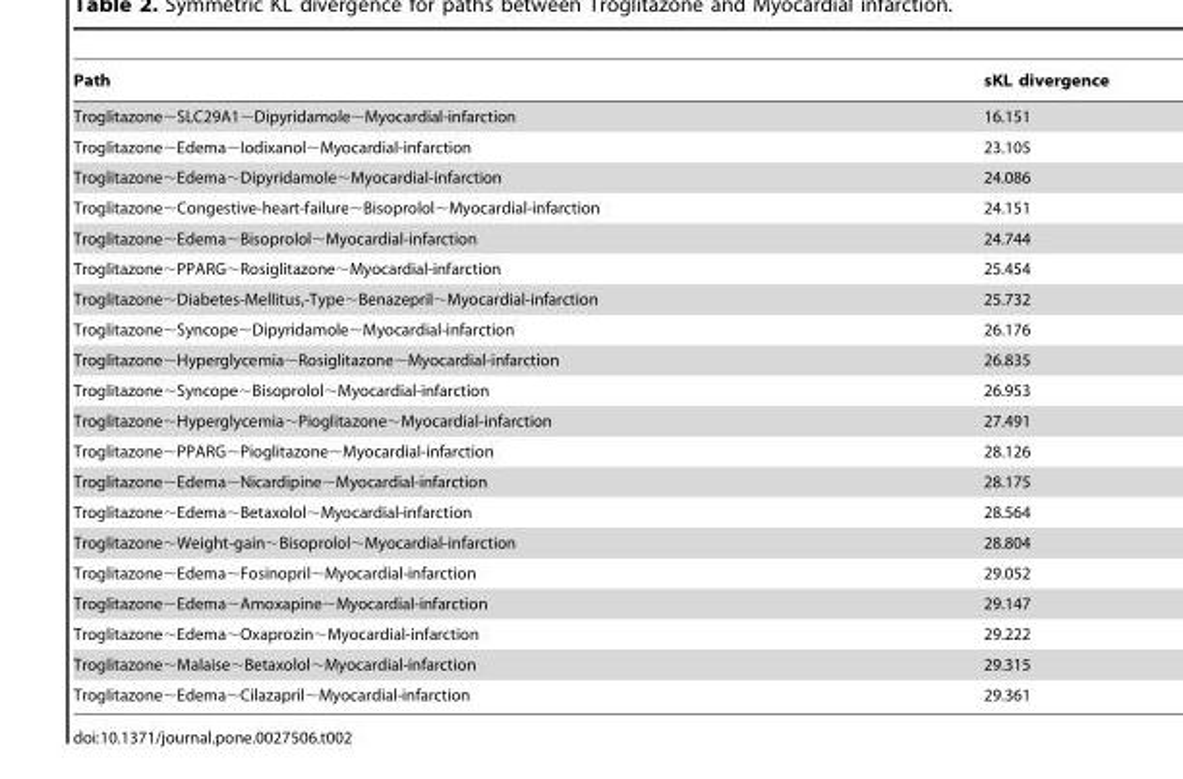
<table><thead><tr><td>Path</td><td>sKL divergence</td></tr></thead><tbody><tr><td>Troglitazone∼SLC29A1∼Dipyridamole∼Myocardial-infarction</td><td>16.151</td></tr><tr><td>Troglitazone∼Edema∼Iodixanol∼Myocardial-infarction</td><td>23.105</td></tr><tr><td>Troglitazone∼Edema∼Dipyridamole∼Myocardial-infarction</td><td>24.086</td></tr><tr><td>Troglitazone∼Congestive-heart-failure∼Bisoprolol∼Myocardial-infarction</td><td>24.151</td></tr><tr><td>Troglitazone∼Edema∼Bisoprolol∼Myocardial-infarction</td><td>24.744</td></tr><tr><td>Troglitazone∼PPARG∼Rosiglitazone∼Myocardial-infarction</td><td>25.454</td></tr><tr><td>Troglitazone∼Diabetes-Mellitus,-Type∼Benazepril∼Myocardial-infarction</td><td>25.732</td></tr><tr><td>Troglitazone∼Syncope∼Dipyridamole∼Myocardial-infarction</td><td>26.176</td></tr><tr><td>Troglitazone∼Hyperglycemia∼Rosiglitazone∼Myocardial-infarction</td><td>26.835</td></tr><tr><td>Troglitazone∼Syncope∼Bisoprolol∼Myocardial-infarction</td><td>26.953</td></tr><tr><td>Troglitazone∼Hyperglycemia∼Pioglitazone∼Myocardial-infarction</td><td>27.491</td></tr><tr><td>Troglitazone∼PPARG∼Pioglitazone∼Myocardial-infarction</td><td>28.126</td></tr><tr><td>Troglitazone∼Edema∼Nicardipine∼Myocardial-infarction</td><td>28.175</td></tr><tr><td>Troglitazone∼Edema∼Betaxolol∼Myocardial-infarction</td><td>28.564</td></tr><tr><td>Troglitazone∼Weight-gain∼Bisoprolol∼Myocardial-infarction</td><td>28.804</td></tr><tr><td>Troglitazone∼Edema∼Fosinopril∼Myocardial-infarction</td><td>29.052</td></tr><tr><td>Troglitazone∼Edema∼Amoxapine∼Myocardial-infarction</td><td>29.147</td></tr><tr><td>Troglitazone∼Edema∼Oxaprozin∼Myocardial-infarction</td><td>29.222</td></tr><tr><td>Troglitazone∼Malaise∼Betaxolol∼Myocardial-infarction</td><td>29.315</td></tr><tr><td>Troglitazone∼Edema∼Cilazapril∼Myocardial-infarction</td><td>29.361</td></tr></tbody></table>